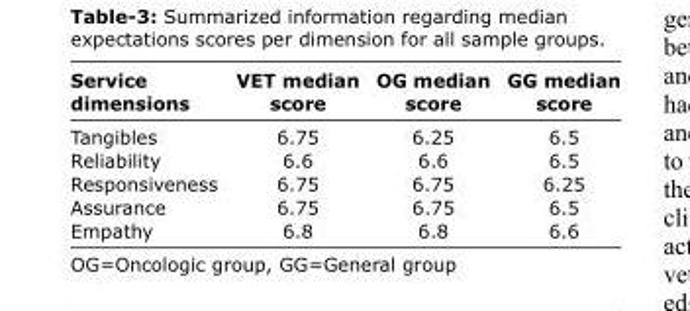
<table><thead><tr><td>Service dimensions</td><td>VET median score</td><td>OG median score</td><td>GG median score</td></tr></thead><tbody><tr><td>Tangibles</td><td>6.75</td><td>6.25</td><td>6.5</td></tr><tr><td>Reliability</td><td>6.6</td><td>6.6</td><td>6.5</td></tr><tr><td>Responsiveness</td><td>6.75</td><td>6.75</td><td>6.25</td></tr><tr><td>Assurance</td><td>6.75</td><td>6.75</td><td>6.5</td></tr><tr><td>Empathy</td><td>6.8</td><td>6.8</td><td>6.6</td></tr></tbody></table>